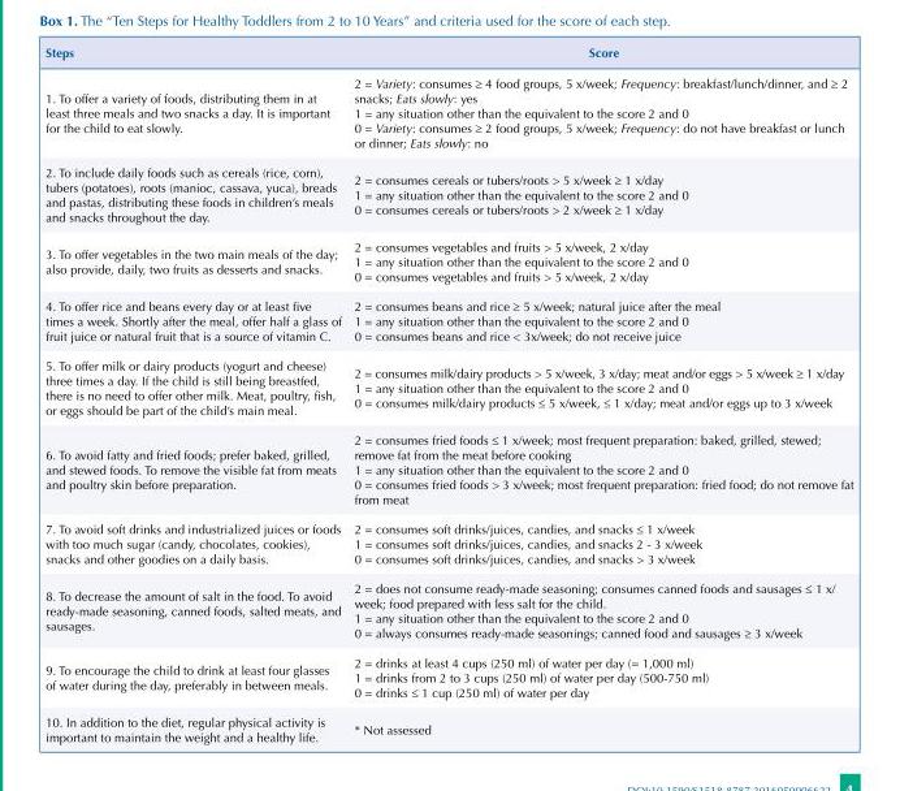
<table><thead><tr><td>Steps</td><td>Score</td></tr></thead><tbody><tr><td>1. To offer a variety of foods, distributing them in at least three meals and two snacks a day. It is important for the child to eat slowly.</td><td>2 = Variety: consumes ≥ 4 food groups, 5 x/week; Frequency: breakfast/lunch/dinner, and ≥ 2 snacks; Eats slowly: yes 1 = any situation other than the equivalent to the score 2 and 0 0 = Variety: consumes ≥ 2 food groups, 5 x/week; Frequency: do not have breakfast or lunch or dinner; Eats slowly: no</td></tr><tr><td>2. To include daily foods such as cereals (rice, corn), tubers (potatoes), roots (manioc, cassava, yuca), breads and pastas, distributing these foods in children’s meals and snacks throughout the day.</td><td>2 = consumes cereals or tubers/roots &gt; 5 x/week ≥ 1 x/day 1 = any situation other than the equivalent to the score 2 and 0 0 = consumes cereals or tubers/roots &gt; 2 x/week ≥ 1 x/day</td></tr><tr><td>3. To offer vegetables in the two main meals of the day; also provide, daily, two fruits as desserts and snacks.</td><td>2 = consumes vegetables and fruits &gt; 5 x/week, 2 x/day 1 = any situation other than the equivalent to the score 2 and 0 0 = consumes vegetables and fruits &gt; 5 x/week, 2 x/day</td></tr><tr><td>4. To offer rice and beans every day or at least five times a week. Shortly after the meal, offer half a glass of fruit juice or natural fruit that is a source of vitamin C.</td><td>2 = consumes beans and rice ≥ 5 x/week; natural juice after the meal 1 = any situation other than the equivalent to the score 2 and 0 0 = consumes beans and rice &lt; 3x/week; do not receive juice</td></tr><tr><td>5. To offer milk or dairy products (yogurt and cheese) three times a day. If the child is still being breastfed, there is no need to offer other milk. Meat, poultry, fish, or eggs should be part of the child’s main meal.</td><td>2 = consumes milk/dairy products &gt; 5 x/week, 3 x/day; meat and/or eggs &gt; 5 x/week ≥ 1 x/day 1 = any situation other than the equivalent to the score 2 and 0 0 = consumes milk/dairy products ≤ 5 x/week, ≤ 1 x/day; meat and/or eggs up to 3 x/week</td></tr><tr><td>6. To avoid fatty and fried foods; prefer baked, grilled, and stewed foods. To remove the visible fat from meats and poultry skin before preparation.</td><td>2 = consumes fried foods ≤ 1 x/week; most frequent preparation: baked, grilled, stewed; remove fat from the meat before cooking 1 = any situation other than the equivalent to the score 2 and 0 0 = consumes fried foods &gt; 3 x/week; most frequent preparation: fried food; do not remove fat from meat</td></tr><tr><td>7. To avoid soft drinks and industrialized juices or foods with too much sugar (candy, chocolates, cookies), snacks and other goodies on a daily basis.</td><td>2 = consumes soft drinks/juices, candies, and snacks ≤ 1 x/week 1 = consumes soft drinks/juices, candies, and snacks 2 - 3 x/week 0 = consumes soft drinks/juices, candies, and snacks &gt; 3 x/week</td></tr><tr><td>8. To decrease the amount of salt in the food. To avoid ready-made seasoning, canned foods, salted meats, and sausages.</td><td>2 = does not consume ready-made seasoning; consumes canned foods and sausages ≤ 1 x/ week; food prepared with less salt for the child. 1 = any situation other than the equivalent to the score 2 and 0 0 = always consumes ready-made seasonings; canned food and sausages ≥ 3 x/week</td></tr><tr><td>9. To encourage the child to drink at least four glasses of water during the day, preferably in between meals.</td><td>2 = drinks at least 4 cups (250 ml) of water per day (= 1,000 ml) 1 = drinks from 2 to 3 cups (250 ml) of water per day (500-750 ml) 0 = drinks ≤ 1 cup (250 ml) of water per day</td></tr><tr><td>10. In addition to the diet, regular physical activity is important to maintain the weight and a healthy life.</td><td>* Not assessed</td></tr></tbody></table>